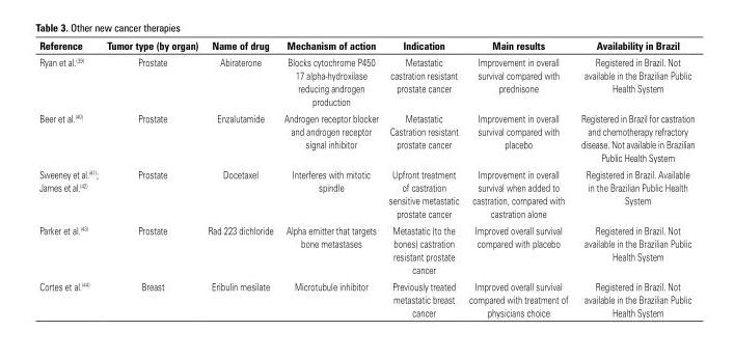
<table><thead><tr><td>Reference</td><td>Tumor type (by organ)</td><td>Name of drug</td><td>Mechanism of action</td><td>Indication</td><td>Main results</td><td>Availability in Brazil</td></tr></thead><tbody><tr><td>Ryan et al.<sup>(39)</sup></td><td>Prostate</td><td>Abiraterone</td><td>Blocks cytochrome P450 17 alpha-hydroxilase reducing androgen production</td><td>Metastatic castration resistant prostate cancer</td><td>Improvement in overall survival compared with prednisone</td><td>Registered in Brazil. Not available in the Brazilian Public Health System</td></tr><tr><td>Beer et al.<sup>(40)</sup></td><td>Prostate</td><td>Enzalutamide</td><td>Androgen receptor blocker and androgen receptor signal inhibitor</td><td>Metastatic Castration resistant prostate cancer</td><td>Improvement in overall survival compared with placebo</td><td>Registered in Brazil for castration and chemotherapy refractory disease. Not available in Brazilian Public Health System</td></tr><tr><td>Sweeney et al.<sup>(41)</sup>; James et al.<sup>(42)</sup></td><td>Prostate</td><td>Docetaxel</td><td>Interferes with mitotic spindle</td><td>Upfront treatment of castration sensitive metastatic prostate cancer</td><td>Improvement in overall survival when added to castration, compared with castration alone</td><td>Registered in Brazil. Available in the Brazilian Public Health System</td></tr><tr><td>Parker et al.<sup>(43)</sup></td><td>Prostate</td><td>Rad 223 dichloride</td><td>Alpha emitter that targets bone metastases</td><td>Metastatic (to the bones) castration resistant prostate cancer</td><td>Improved overall survival compared with placebo</td><td>Registered in Brazil. Not available in the Brazilian Public Health System</td></tr><tr><td>Cortes et al.<sup>(44)</sup></td><td>Breast</td><td>Eribulin mesilate</td><td>Microtubule inhibitor</td><td>Previously treated metastatic breast cancer</td><td>Improved overall survival compared with treatment of physicians choice</td><td>Registered in Brazil. Not available in the Brazilian Public Health System</td></tr></tbody></table>